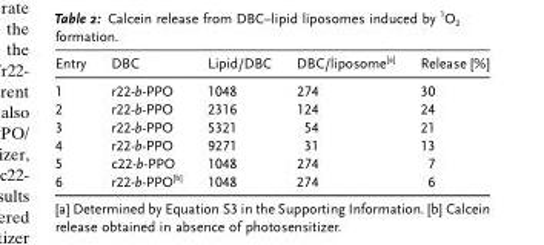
<table><thead><tr><td>Entry</td><td>DBC</td><td>Lipid/DBC</td><td>DBC/liposome[a]</td><td>Release [%]</td></tr></thead><tbody><tr><td>1</td><td>r22-b-PPO</td><td>1048</td><td>274</td><td>30</td></tr><tr><td>2</td><td>r22-b-PPO</td><td>2316</td><td>124</td><td>24</td></tr><tr><td>3</td><td>r22-b-PPO</td><td>5321</td><td>54</td><td>21</td></tr><tr><td>4</td><td>r22-b-PPO</td><td>9271</td><td>31</td><td>13</td></tr><tr><td>5</td><td>c22-b-PPO</td><td>1048</td><td>274</td><td>7</td></tr><tr><td>6</td><td>r22-b-PPO<sup>[b]</sup></td><td>1048</td><td>274</td><td>6</td></tr></tbody></table>